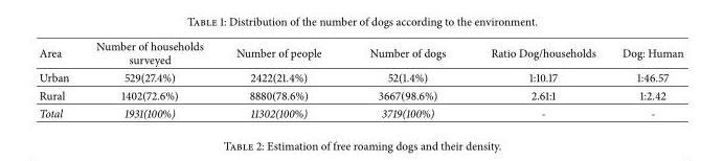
<table><thead><tr><td>Area</td><td>Number of households surveyed</td><td>Number of people</td><td>Number of dogs</td><td>Ratio Dog/households</td><td>Dog: Human</td></tr></thead><tbody><tr><td>Urban</td><td>529(27.4%)</td><td>2422(21.4%)</td><td>52(1.4%)</td><td>1:10.17</td><td>1:46.57</td></tr><tr><td>Rural</td><td>1402(72.6%)</td><td>8880(78.6%)</td><td>3667(98.6%)</td><td>2.61:1</td><td>1:2.42</td></tr><tr><td>Total</td><td>1931(100%)</td><td>11302(100%)</td><td>3719(100%)</td><td>-</td><td>-</td></tr></tbody></table>